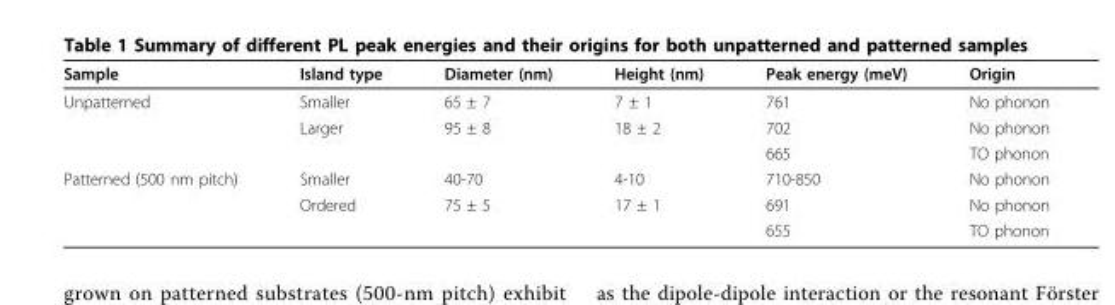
<table><thead><tr><td>Sample</td><td>Island type</td><td>Diameter (nm)</td><td>Height (nm)</td><td>Peak energy (meV)</td><td>Origin</td></tr></thead><tbody><tr><td rowspan="3">Unpatterned</td><td>Smaller</td><td>65 ± 7</td><td>7 ± 1</td><td>761</td><td>No phonon</td></tr><tr><td>Larger</td><td>95 ± 8</td><td>18 ± 2</td><td>702</td><td>No phonon</td></tr><tr><td></td><td></td><td></td><td>665</td><td>TO phonon</td></tr><tr><td rowspan="3">Patterned (500 nm pitch)</td><td>Smaller</td><td>40-70</td><td>4-10</td><td>710-850</td><td>No phonon</td></tr><tr><td>Ordered</td><td>75 ± 5</td><td>17 ± 1</td><td>691</td><td>No phonon</td></tr><tr><td></td><td></td><td></td><td>655</td><td>TO phonon</td></tr></tbody></table>